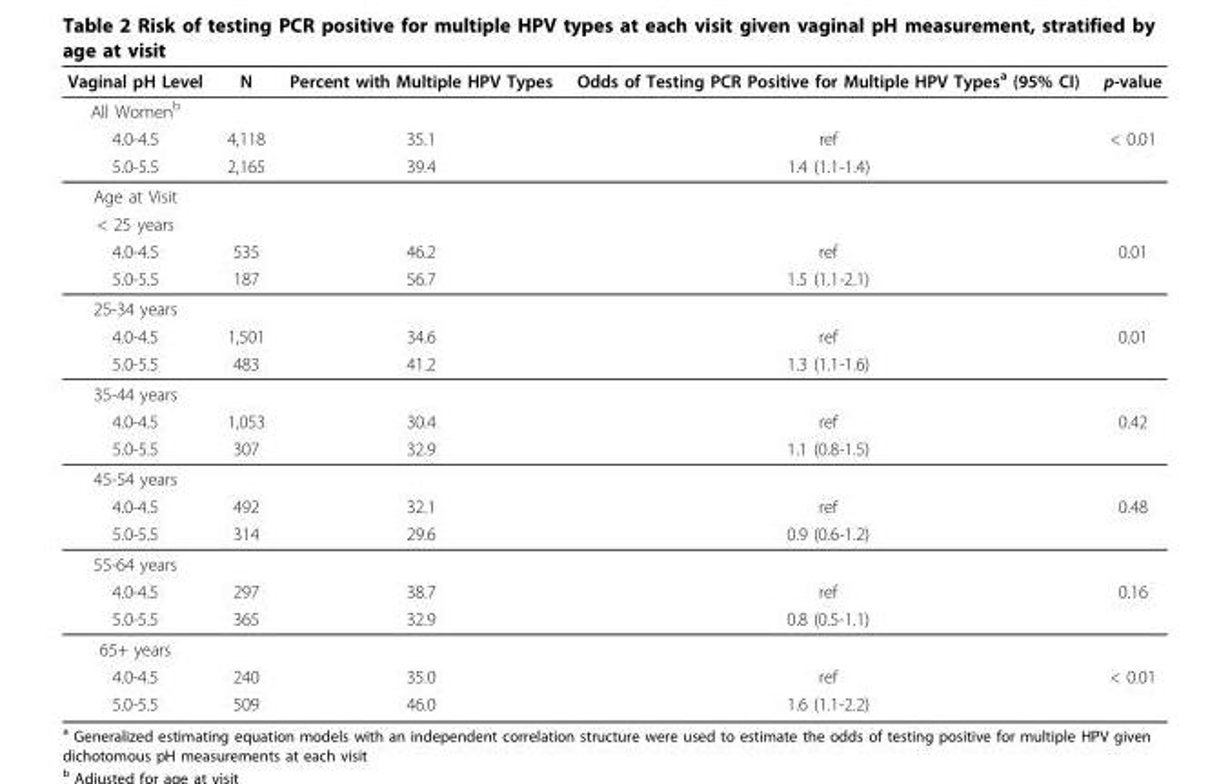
<table><thead><tr><td>Vaginal pH Level</td><td>N</td><td>Percent with Multiple HPV Types</td><td>Odds of Testing PCR Positive for Multiple HPV Types<sup>a</sup> (95% CI)</td><td>p-value</td></tr></thead><tbody><tr><td colspan="5">All Women<sup>b</sup></td></tr><tr><td>4.0-4.5</td><td>4,118</td><td>35.1</td><td>ref</td><td>&lt; 0.01</td></tr><tr><td>5.0-5.5</td><td>2,165</td><td>39.4</td><td>1.4 (1.1-1.4)</td><td></td></tr><tr><td colspan="5">Age at Visit</td></tr><tr><td colspan="5">&lt; 25 years</td></tr><tr><td>4.0-4.5</td><td>535</td><td>46.2</td><td>ref</td><td>0.01</td></tr><tr><td>5.0-5.5</td><td>187</td><td>56.7</td><td>1.5 (1.1-2.1)</td><td></td></tr><tr><td colspan="5">25-34 years</td></tr><tr><td>4.0-4.5</td><td>1,501</td><td>34.6</td><td>ref</td><td>0.01</td></tr><tr><td>5.0-5.5</td><td>483</td><td>41.2</td><td>1.3 (1.1-1.6)</td><td></td></tr><tr><td colspan="5">35-44 years</td></tr><tr><td>4.0-4.5</td><td>1,053</td><td>30.4</td><td>ref</td><td>0.42</td></tr><tr><td>5.0-5.5</td><td>307</td><td>32.9</td><td>1.1 (0.8-1.5)</td><td></td></tr><tr><td colspan="5">45-54 years</td></tr><tr><td>4.0-4.5</td><td>492</td><td>32.1</td><td>ref</td><td>0.48</td></tr><tr><td>5.0-5.5</td><td>314</td><td>29.6</td><td>0.9 (0.6-1.2)</td><td></td></tr><tr><td colspan="5">55-64 years</td></tr><tr><td>4.0-4.5</td><td>297</td><td>38.7</td><td>ref</td><td>0.16</td></tr><tr><td>5.0-5.5</td><td>365</td><td>32.9</td><td>0.8 (0.5-1.1)</td><td></td></tr><tr><td colspan="5">65+ years</td></tr><tr><td>4.0-4.5</td><td>240</td><td>35.0</td><td>ref</td><td>&lt; 0.01</td></tr><tr><td>5.0-5.5</td><td>509</td><td>46.0</td><td>1.6 (1.1-2.2)</td><td></td></tr></tbody></table>